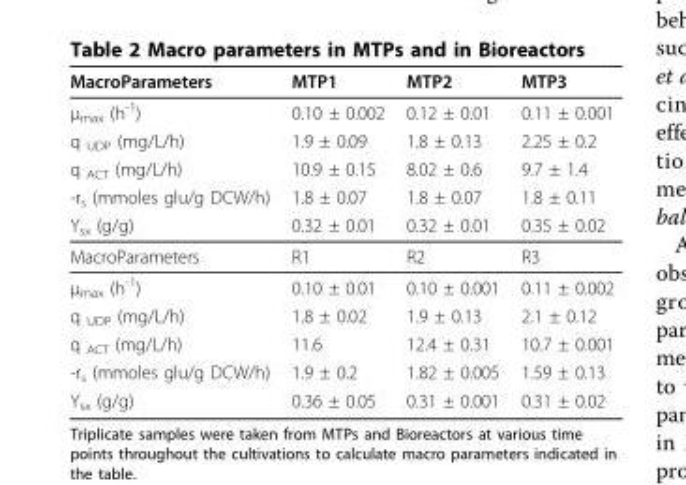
<table><thead><tr><td>MacroParameters</td><td>MTP1</td><td>MTP2</td><td>MTP3</td></tr></thead><tbody><tr><td>μ<sub>max</sub> (h<sup>-1</sup>)</td><td>0.10 ± 0.002</td><td>0.12 ± 0.01</td><td>0.11 ± 0.001</td></tr><tr><td>q <sub>UDP</sub> (mg/L/h)</td><td>1.9 ± 0.09</td><td>1.8 ± 0.13</td><td>2.25 ± 0.2</td></tr><tr><td>q <sub>ACT</sub> (mg/L/h)</td><td>10.9 ± 0.15</td><td>8.02 ± 0.6</td><td>9.7 ± 1.4</td></tr><tr><td>-r<sub>s</sub> (mmoles glu/g DCW/h)</td><td>1.8 ± 0.07</td><td>1.8 ± 0.07</td><td>1.8 ± 0.11</td></tr><tr><td>Y<sub>sx</sub> (g/g)</td><td>0.32 ± 0.01</td><td>0.32 ± 0.01</td><td>0.35 ± 0.02</td></tr><tr><td>MacroParameters</td><td>R1</td><td>R2</td><td>R3</td></tr><tr><td>μ<sub>max</sub> (h<sup>-1</sup>)</td><td>0.10 ± 0.01</td><td>0.10 ± 0.001</td><td>0.11 ± 0.002</td></tr><tr><td>q <sub>UDP</sub> (mg/L/h)</td><td>1.8 ± 0.02</td><td>1.9 ± 0.13</td><td>2.1 ± 0.12</td></tr><tr><td>q <sub>ACT</sub> (mg/L/h)</td><td>11.6</td><td>12.4 ± 0.31</td><td>10.7 ± 0.001</td></tr><tr><td>-r<sub>s</sub> (mmoles glu/g DCW/h)</td><td>1.9 ± 0.2</td><td>1.82 ± 0.005</td><td>1.59 ± 0.13</td></tr><tr><td>Y<sub>sx</sub> (g/g)</td><td>0.36 ± 0.05</td><td>0.31 ± 0.001</td><td>0.31 ± 0.02</td></tr></tbody></table>